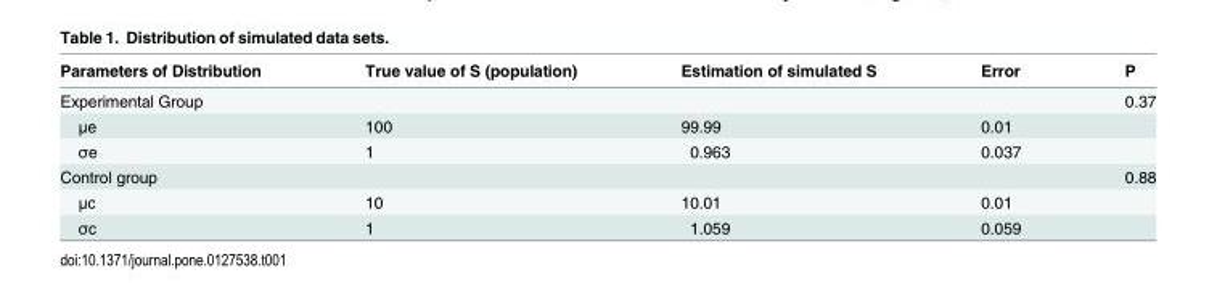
<table><thead><tr><td>Parameters of Distribution</td><td>True value of S (population)</td><td>Estimation of simulated S</td><td>Error</td><td>P</td></tr></thead><tbody><tr><td>Experimental Group</td><td></td><td></td><td></td><td>0.37</td></tr><tr><td>μe</td><td>100</td><td>99.99</td><td>0.01</td><td></td></tr><tr><td>σe</td><td>1</td><td>0.963</td><td>0.037</td><td></td></tr><tr><td>Control group</td><td></td><td></td><td></td><td>0.88</td></tr><tr><td>μc</td><td>10</td><td>10.01</td><td>0.01</td><td></td></tr><tr><td>σc</td><td>1</td><td>1.059</td><td>0.059</td><td></td></tr></tbody></table>